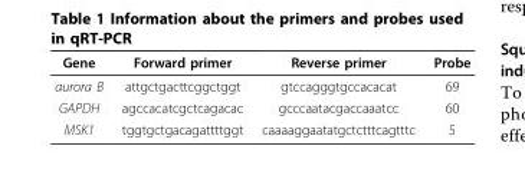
<table><thead><tr><td>Gene</td><td>Forward primer</td><td>Reverse primer</td><td>Probe</td></tr></thead><tbody><tr><td>aurora B</td><td>attgctgacttcggctggt</td><td>gtccagggtgccacacat</td><td>69</td></tr><tr><td>GAPDH</td><td>agccacatcgctcagacac</td><td>gcccaatacgaccaaatcc</td><td>60</td></tr><tr><td>MSK1</td><td>tggtgctgacagattttggt</td><td>caaaaggaatatgctctttcagtttc</td><td>5</td></tr></tbody></table>